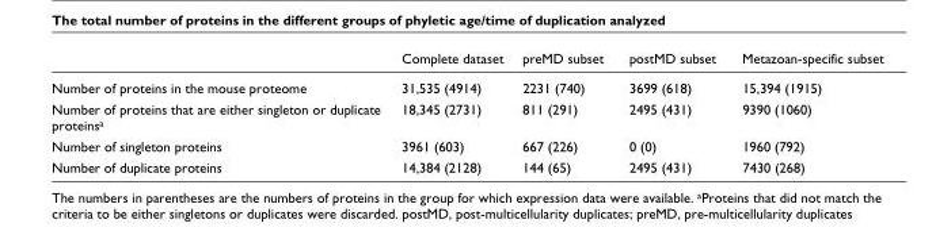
<table><thead><tr><td></td><td>Complete dataset</td><td>preMD subset</td><td>postMD subset</td><td>Metazoan-specific subset</td></tr></thead><tbody><tr><td>Number of proteins in the mouse proteome</td><td>31,535 (4914)</td><td>2231 (740)</td><td>3699 (618)</td><td>15,394 (1915)</td></tr><tr><td>Number of proteins that are either singleton or duplicate proteinsa</td><td>18,345 (2731)</td><td>811 (291)</td><td>2495 (431)</td><td>9390 (1060)</td></tr><tr><td>Number of singleton proteins</td><td>3961 (603)</td><td>667 (226)</td><td>0 (0)</td><td>1960 (792)</td></tr><tr><td>Number of duplicate proteins</td><td>14,384 (2128)</td><td>144 (65)</td><td>2495 (431)</td><td>7430 (268)</td></tr></tbody></table>